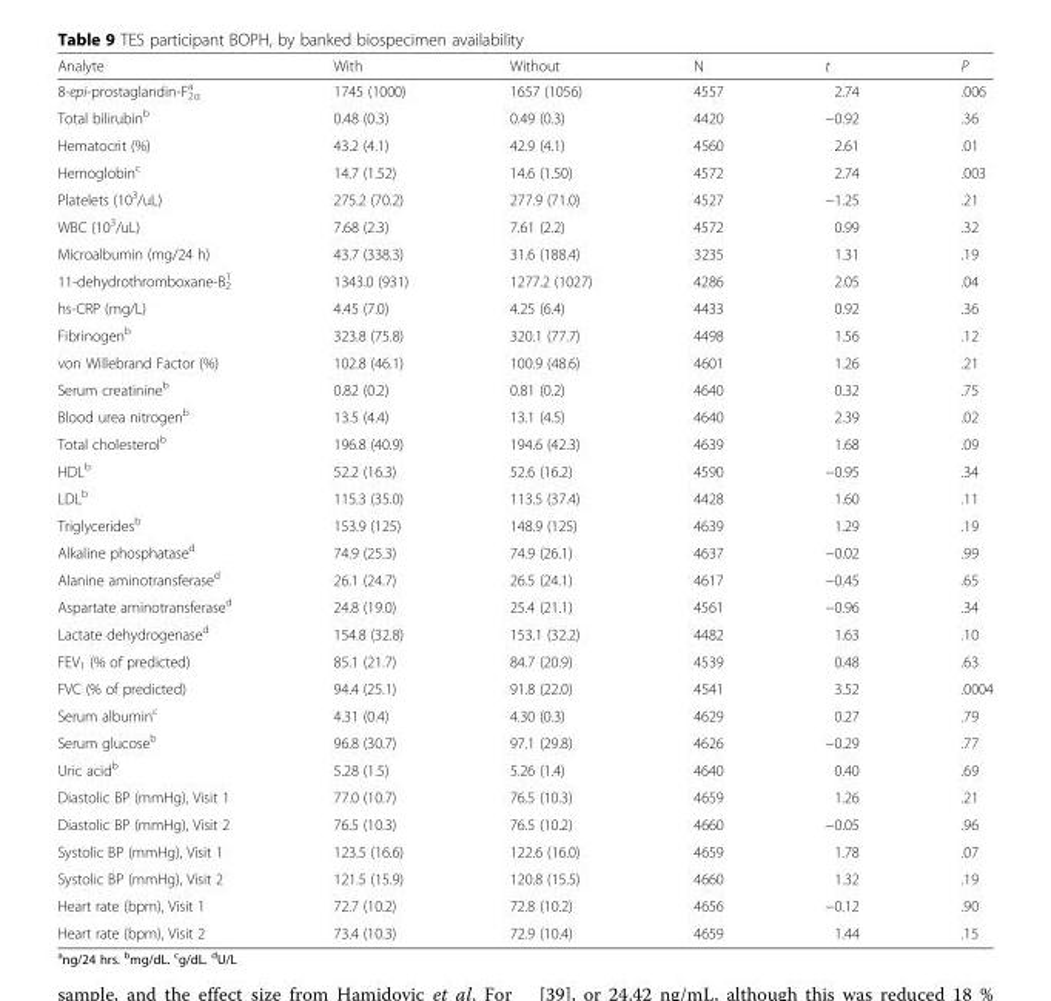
<table><thead><tr><td>Analyte</td><td>With</td><td>Without</td><td>N</td><td>t</td><td>P</td></tr></thead><tbody><tr><td>8-epi-prostaglandin-F<sub>2α</sub> <sup>a</sup></td><td>1745 (1000)</td><td>1657 (1056)</td><td>4557</td><td>2.74</td><td>.006</td></tr><tr><td>Total bilirubin<sup>b</sup></td><td>0.48 (0.3)</td><td>0.49 (0.3)</td><td>4420</td><td>−0.92</td><td>.36</td></tr><tr><td>Hematocrit (%)</td><td>43.2 (4.1)</td><td>42.9 (4.1)</td><td>4560</td><td>2.61</td><td>.01</td></tr><tr><td>Hemoglobin<sup>c</sup></td><td>14.7 (1.52)</td><td>14.6 (1.50)</td><td>4572</td><td>2.74</td><td>.003</td></tr><tr><td>Platelets (10<sup>3</sup>/uL)</td><td>275.2 (70.2)</td><td>277.9 (71.0)</td><td>4527</td><td>−1.25</td><td>.21</td></tr><tr><td>WBC (10<sup>3</sup>/uL)</td><td>7.68 (2.3)</td><td>7.61 (2.2)</td><td>4572</td><td>0.99</td><td>.32</td></tr><tr><td>Microalbumin (mg/24 h)</td><td>43.7 (338.3)</td><td>31.6 (188.4)</td><td>3235</td><td>1.31</td><td>.19</td></tr><tr><td>11-dehydrothromboxane-B<sub>2</sub> <sup>1</sup></td><td>1343.0 (931)</td><td>1277.2 (1027)</td><td>4286</td><td>2.05</td><td>.04</td></tr><tr><td>hs-CRP (mg/L)</td><td>4.45 (7.0)</td><td>4.25 (6.4)</td><td>4433</td><td>0.92</td><td>.36</td></tr><tr><td>Fibrinogen<sup>b</sup></td><td>323.8 (75.8)</td><td>320.1 (77.7)</td><td>4498</td><td>1.56</td><td>.12</td></tr><tr><td>von Willebrand Factor (%)</td><td>102.8 (46.1)</td><td>100.9 (48.6)</td><td>4601</td><td>1.26</td><td>.21</td></tr><tr><td>Serum creatinine<sup>b</sup></td><td>0.82 (0.2)</td><td>0.81 (0.2)</td><td>4640</td><td>0.32</td><td>.75</td></tr><tr><td>Blood urea nitrogen<sup>b</sup></td><td>13.5 (4.4)</td><td>13.1 (4.5)</td><td>4640</td><td>2.39</td><td>.02</td></tr><tr><td>Total cholesterol<sup>b</sup></td><td>196.8 (40.9)</td><td>194.6 (42.3)</td><td>4639</td><td>1.68</td><td>.09</td></tr><tr><td>HDL<sup>b</sup></td><td>52.2 (16.3)</td><td>52.6 (16.2)</td><td>4590</td><td>−0.95</td><td>.34</td></tr><tr><td>LDL<sup>b</sup></td><td>115.3 (35.0)</td><td>113.5 (37.4)</td><td>4428</td><td>1.60</td><td>.11</td></tr><tr><td>Triglycerides<sup>b</sup></td><td>153.9 (125)</td><td>148.9 (125)</td><td>4639</td><td>1.29</td><td>.19</td></tr><tr><td>Alkaline phosphatase<sup>d</sup></td><td>74.9 (25.3)</td><td>74.9 (26.1)</td><td>4637</td><td>−0.02</td><td>.99</td></tr><tr><td>Alanine aminotransferase<sup>d</sup></td><td>26.1 (24.7)</td><td>26.5 (24.1)</td><td>4617</td><td>−0.45</td><td>.65</td></tr><tr><td>Aspartate aminotransferase<sup>d</sup></td><td>24.8 (19.0)</td><td>25.4 (21.1)</td><td>4561</td><td>−0.96</td><td>.34</td></tr><tr><td>Lactate dehydrogenase<sup>d</sup></td><td>154.8 (32.8)</td><td>153.1 (32.2)</td><td>4482</td><td>1.63</td><td>.10</td></tr><tr><td>FEV<sub>1</sub> (% of predicted)</td><td>85.1 (21.7)</td><td>84.7 (20.9)</td><td>4539</td><td>0.48</td><td>.63</td></tr><tr><td>FVC (% of predicted)</td><td>94.4 (25.1)</td><td>91.8 (22.0)</td><td>4541</td><td>3.52</td><td>.0004</td></tr><tr><td>Serum albumin<sup>c</sup></td><td>4.31 (0.4)</td><td>4.30 (0.3)</td><td>4629</td><td>0.27</td><td>.79</td></tr><tr><td>Serum glucose<sup>b</sup></td><td>96.8 (30.7)</td><td>97.1 (29.8)</td><td>4626</td><td>−0.29</td><td>.77</td></tr><tr><td>Uric acid<sup>b</sup></td><td>5.28 (1.5)</td><td>5.26 (1.4)</td><td>4640</td><td>0.40</td><td>.69</td></tr><tr><td>Diastolic BP (mmHg), Visit 1</td><td>77.0 (10.7)</td><td>76.5 (10.3)</td><td>4659</td><td>1.26</td><td>.21</td></tr><tr><td>Diastolic BP (mmHg), Visit 2</td><td>76.5 (10.3)</td><td>76.5 (10.2)</td><td>4660</td><td>−0.05</td><td>.96</td></tr><tr><td>Systolic BP (mmHg), Visit 1</td><td>123.5 (16.6)</td><td>122.6 (16.0)</td><td>4659</td><td>1.78</td><td>.07</td></tr><tr><td>Systolic BP (mmHg), Visit 2</td><td>121.5 (15.9)</td><td>120.8 (15.5)</td><td>4660</td><td>1.32</td><td>.19</td></tr><tr><td>Heart rate (bpm), Visit 1</td><td>72.7 (10.2)</td><td>72.8 (10.2)</td><td>4656</td><td>−0.12</td><td>.90</td></tr><tr><td>Heart rate (bpm), Visit 2</td><td>73.4 (10.3)</td><td>72.9 (10.4)</td><td>4659</td><td>1.44</td><td>.15</td></tr></tbody></table>